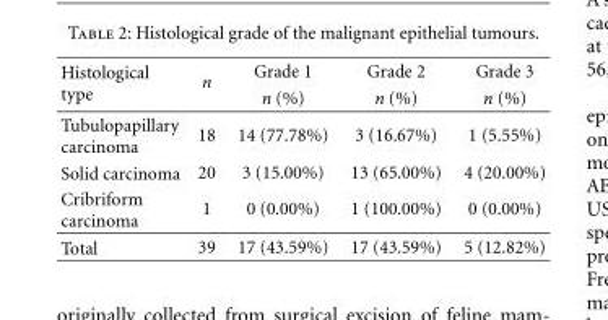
<table><thead><tr><td rowspan="2">Histological type</td><td rowspan="2">n</td><td rowspan="2">Grade 1 n (%)</td><td rowspan="2">Grade 2 n (%)</td><td rowspan="2">Grade 3 n (%)</td></tr><tr></tr></thead><tbody><tr><td>Tubulopapillary carcinoma</td><td>18</td><td>14 (77.78%)</td><td>3 (16.67%)</td><td>1 (5.55%)</td></tr><tr><td>Solid carcinoma</td><td>20</td><td>3 (15.00%)</td><td>13 (65.00%)</td><td>4 (20.00%)</td></tr><tr><td>Cribriform carcinoma</td><td>1</td><td>0 (0.00%)</td><td>1 (100.00%)</td><td>0 (0.00%)</td></tr><tr><td>Total</td><td>39</td><td>17 (43.59%)</td><td>17 (43.59%)</td><td>5 (12.82%)</td></tr></tbody></table>